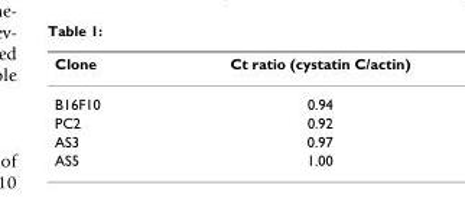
<table><thead><tr><td>Clone</td><td>Ct ratio (cystatin C/actin)</td></tr></thead><tbody><tr><td>B16F10</td><td>0.94</td></tr><tr><td>PC2</td><td>0.92</td></tr><tr><td>AS3</td><td>0.97</td></tr><tr><td>AS5</td><td>1.00</td></tr></tbody></table>